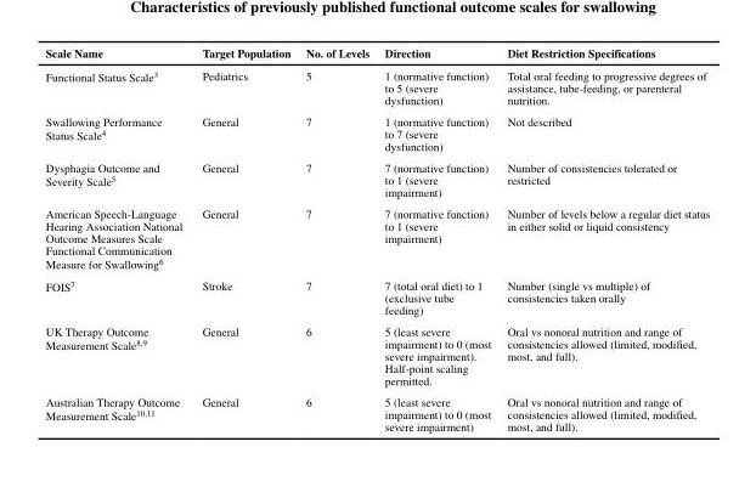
<table><thead><tr><td>Scale Name</td><td>Target Population</td><td>No. of Levels</td><td>Direction</td><td>Diet Restriction Specifications</td></tr></thead><tbody><tr><td>Functional Status Scale<sup>3</sup></td><td>Pediatrics</td><td>5</td><td>1 (normative function) to 5 (severe dysfunction)</td><td>Total oral feeding to progressive degrees of assistance, tube-feeding, or parenteral nutrition.</td></tr><tr><td>Swallowing Performance Status Scale<sup>4</sup></td><td>General</td><td>7</td><td>1 (normative function) to 7 (severe dysfunction)</td><td>Not described</td></tr><tr><td>Dysphagia Outcome and Severity Scale<sup>5</sup></td><td>General</td><td>7</td><td>7 (normative function) to 1 (severe impairment)</td><td>Number of consistencies tolerated or restricted</td></tr><tr><td>American Speech-Language Hearing Association National Outcome Measures Scale Functional Communication Measure for Swallowing<sup>6</sup></td><td>General</td><td>7</td><td>7 (normative function) to 1 (severe impairment)</td><td>Number of levels below a regular diet status in either solid or liquid consistency</td></tr><tr><td>FOIS<sup>7</sup></td><td>Stroke</td><td>7</td><td>7 (total oral diet) to 1 (exclusive tube feeding)</td><td>Number (single vs multiple) of consistencies taken orally</td></tr><tr><td>UK Therapy Outcome Measurement Scale<sup>8,9</sup></td><td>General</td><td>6</td><td>5 (least severe impairment) to 0 (most severe impairment). Half-point scaling permitted.</td><td>Oral vs nonoral nutrition and range of consistencies allowed (limited, modified, most, and full).</td></tr><tr><td>Australian Therapy Outcome Measurement Scale<sup>10,11</sup></td><td>General</td><td>6</td><td>5 (least severe impairment) to 0 (most severe impairment)</td><td>Oral vs nonoral nutrition and range of consistencies allowed (limited, modified, most, and full).</td></tr></tbody></table>